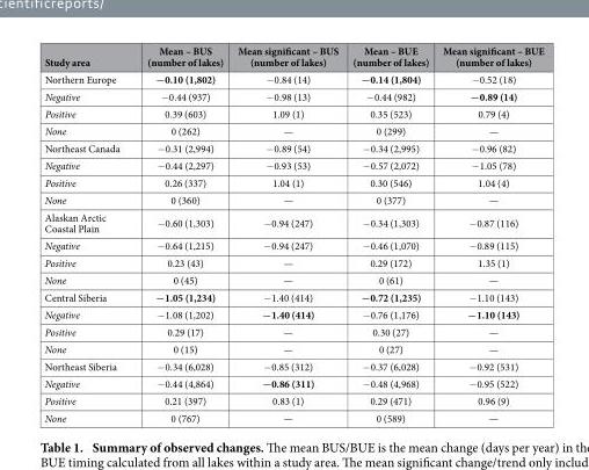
<table><thead><tr><td>Study area</td><td>Mean – BUS (number of lakes)</td><td>Mean significant – BUS (number of lakes)</td><td>Mean – BUE (number of lakes)</td><td>Mean significant – BUE (number of lakes)</td></tr></thead><tbody><tr><td>Northern Europe</td><td>−0.10 (1,802)</td><td>− 0.84 (14)</td><td>−0.14 (1,804)</td><td>− 0.52 (18)</td></tr><tr><td>Negative</td><td>− 0.44 (937)</td><td>− 0.98 (13)</td><td>− 0.44 (982)</td><td>−0.89 (14)</td></tr><tr><td>Positive</td><td>0.39 (603)</td><td>1.09 (1)</td><td>0.35 (523)</td><td>0.79 (4)</td></tr><tr><td>None</td><td>0 (262)</td><td>—</td><td>0 (299)</td><td>—</td></tr><tr><td>Northeast Canada</td><td>− 0.31 (2,994)</td><td>− 0.89 (54)</td><td>− 0.34 (2,995)</td><td>− 0.96 (82)</td></tr><tr><td>Negative</td><td>− 0.44 (2,297)</td><td>− 0.93 (53)</td><td>− 0.57 (2,072)</td><td>− 1.05 (78)</td></tr><tr><td>Positive</td><td>0.26 (337)</td><td>1.04 (1)</td><td>0.30 (546)</td><td>1.04 (4)</td></tr><tr><td>None</td><td>0 (360)</td><td>—</td><td>0 (377)</td><td>—</td></tr><tr><td>Alaskan Arctic Coastal Plain</td><td>− 0.60 (1,303)</td><td>− 0.94 (247)</td><td>− 0.34 (1,303)</td><td>− 0.87 (116)</td></tr><tr><td>Negative</td><td>− 0.64 (1,215)</td><td>− 0.94 (247)</td><td>− 0.46 (1,070)</td><td>− 0.89 (115)</td></tr><tr><td>Positive</td><td>0.23 (43)</td><td>—</td><td>0.29 (172)</td><td>1.35 (1)</td></tr><tr><td>None</td><td>0 (45)</td><td>—</td><td>0 (61)</td><td>—</td></tr><tr><td>Central Siberia</td><td>−1.05 (1,234)</td><td>− 1.40 (414)</td><td>−0.72 (1,235)</td><td>− 1.10 (143)</td></tr><tr><td>Negative</td><td>− 1.08 (1,202)</td><td>−1.40 (414)</td><td>− 0.76 (1,176)</td><td>−1.10 (143)</td></tr><tr><td>Positive</td><td>0.29 (17)</td><td>—</td><td>0.30 (27)</td><td>—</td></tr><tr><td>None</td><td>0 (15)</td><td>—</td><td>0 (27)</td><td>—</td></tr><tr><td>Northeast Siberia</td><td>− 0.34 (6,028)</td><td>− 0.85 (312)</td><td>− 0.37 (6,028)</td><td>− 0.92 (531)</td></tr><tr><td>Negative</td><td>− 0.44 (4,864)</td><td>−0.86 (311)</td><td>− 0.48 (4,968)</td><td>− 0.95 (522)</td></tr><tr><td>Positive</td><td>0.21 (397)</td><td>0.83 (1)</td><td>0.29 (471)</td><td>0.96 (9)</td></tr><tr><td>None</td><td>0 (767)</td><td>—</td><td>0 (589)</td><td>—</td></tr></tbody></table>